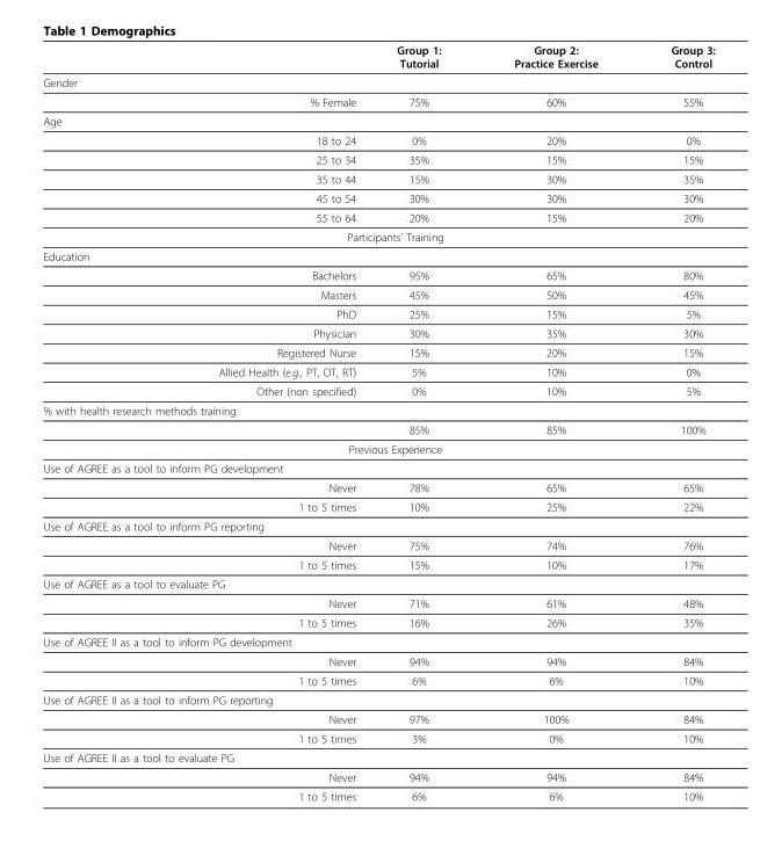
<table><thead><tr><td></td><td>Group 1: Tutorial</td><td>Group 2: Practice Exercise</td><td>Group 3: Control</td></tr></thead><tbody><tr><td colspan="4">Gender</td></tr><tr><td>% Female</td><td>75%</td><td>60%</td><td>55%</td></tr><tr><td colspan="4">Age</td></tr><tr><td>18 to 24</td><td>0%</td><td>20%</td><td>0%</td></tr><tr><td>25 to 34</td><td>35%</td><td>15%</td><td>15%</td></tr><tr><td>35 to 44</td><td>15%</td><td>30%</td><td>35%</td></tr><tr><td>45 to 54</td><td>30%</td><td>30%</td><td>30%</td></tr><tr><td>55 to 64</td><td>20%</td><td>15%</td><td>20%</td></tr><tr><td colspan="4">Participants’ Training</td></tr><tr><td colspan="4">Education</td></tr><tr><td>Bachelors</td><td>95%</td><td>65%</td><td>80%</td></tr><tr><td>Masters</td><td>45%</td><td>50%</td><td>45%</td></tr><tr><td>PhD</td><td>25%</td><td>15%</td><td>5%</td></tr><tr><td>Physician</td><td>30%</td><td>35%</td><td>30%</td></tr><tr><td>Registered Nurse</td><td>15%</td><td>20%</td><td>15%</td></tr><tr><td>Allied Health (e.g., PT, OT, RT)</td><td>5%</td><td>10%</td><td>0%</td></tr><tr><td>Other (non specified)</td><td>0%</td><td>10%</td><td>5%</td></tr><tr><td colspan="4">% with health research methods training</td></tr><tr><td></td><td>85%</td><td>85%</td><td>100%</td></tr><tr><td colspan="4">Previous Experience</td></tr><tr><td colspan="4">Use of AGREE as a tool to inform PG development</td></tr><tr><td>Never</td><td>78%</td><td>65%</td><td>65%</td></tr><tr><td>1 to 5 times</td><td>10%</td><td>25%</td><td>22%</td></tr><tr><td colspan="4">Use of AGREE as a tool to inform PG reporting</td></tr><tr><td>Never</td><td>75%</td><td>74%</td><td>76%</td></tr><tr><td>1 to 5 times</td><td>15%</td><td>10%</td><td>17%</td></tr><tr><td colspan="4">Use of AGREE as a tool to evaluate PG</td></tr><tr><td>Never</td><td>71%</td><td>61%</td><td>48%</td></tr><tr><td>1 to 5 times</td><td>16%</td><td>26%</td><td>35%</td></tr><tr><td colspan="4">Use of AGREE II as a tool to inform PG development</td></tr><tr><td>Never</td><td>94%</td><td>94%</td><td>84%</td></tr><tr><td>1 to 5 times</td><td>6%</td><td>6%</td><td>10%</td></tr><tr><td colspan="4">Use of AGREE II as a tool to inform PG reporting</td></tr><tr><td>Never</td><td>97%</td><td>100%</td><td>84%</td></tr><tr><td>1 to 5 times</td><td>3%</td><td>0%</td><td>10%</td></tr><tr><td colspan="4">Use of AGREE II as a tool to evaluate PG</td></tr><tr><td>Never</td><td>94%</td><td>94%</td><td>84%</td></tr><tr><td>1 to 5 times</td><td>6%</td><td>6%</td><td>10%</td></tr></tbody></table>